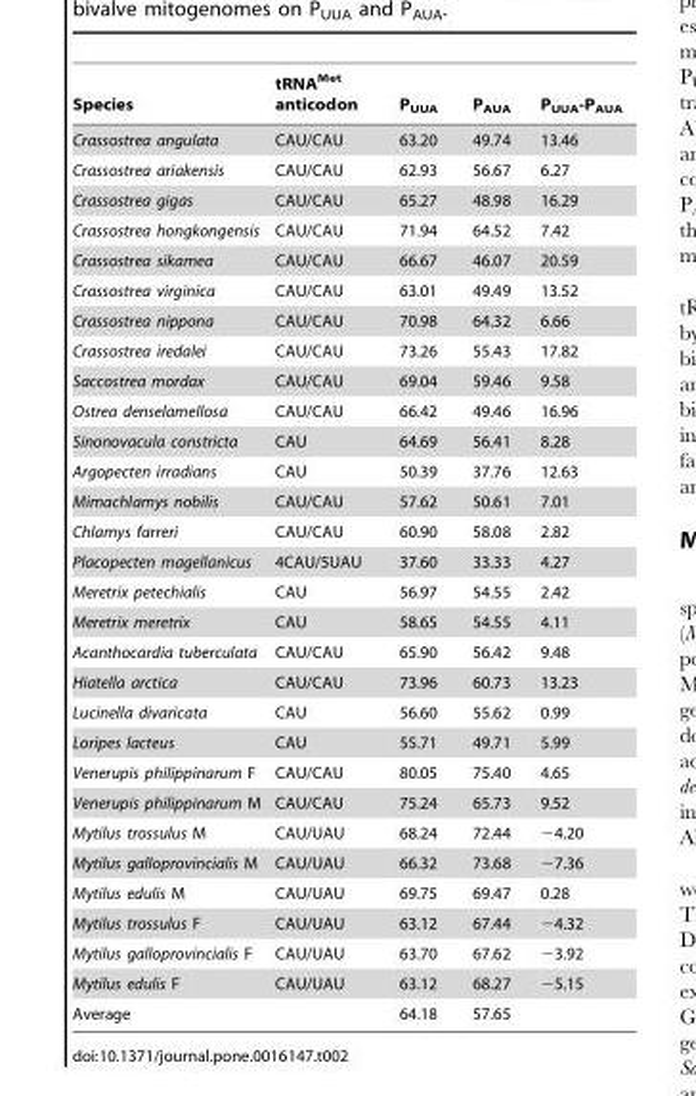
<table><thead><tr><td>Species</td><td>tRNA<sup>Met</sup> anticodon</td><td>P<sub>UUA</sub></td><td>P<sub>AUA</sub></td><td>P<sub>UUA</sub>-P<sub>AUA</sub></td></tr></thead><tbody><tr><td>Crassostrea angulata</td><td>CAU/CAU</td><td>63.20</td><td>49.74</td><td>13.46</td></tr><tr><td>Crassostrea ariakensis</td><td>CAU/CAU</td><td>62.93</td><td>56.67</td><td>6.27</td></tr><tr><td>Crassostrea gigas</td><td>CAU/CAU</td><td>65.27</td><td>48.98</td><td>16.29</td></tr><tr><td>Crassostrea hongkongensis</td><td>CAU/CAU</td><td>71.94</td><td>64.52</td><td>7.42</td></tr><tr><td>Crassostrea sikamea</td><td>CAU/CAU</td><td>66.67</td><td>46.07</td><td>20.59</td></tr><tr><td>Crassostrea virginica</td><td>CAU/CAU</td><td>63.01</td><td>49.49</td><td>13.52</td></tr><tr><td>Crassostrea nippona</td><td>CAU/CAU</td><td>70.98</td><td>64.32</td><td>6.66</td></tr><tr><td>Crassostrea iredalei</td><td>CAU/CAU</td><td>73.26</td><td>55.43</td><td>17.82</td></tr><tr><td>Saccostrea mordax</td><td>CAU/CAU</td><td>69.04</td><td>59.46</td><td>9.58</td></tr><tr><td>Ostrea denselamellosa</td><td>CAU/CAU</td><td>66.42</td><td>49.46</td><td>16.96</td></tr><tr><td>Sinonovacula constricta</td><td>CAU</td><td>64.69</td><td>56.41</td><td>8.28</td></tr><tr><td>Argopecten irradians</td><td>CAU</td><td>50.39</td><td>37.76</td><td>12.63</td></tr><tr><td>Mimachlamys nobilis</td><td>CAU/CAU</td><td>57.62</td><td>50.61</td><td>7.01</td></tr><tr><td>Chlamys farreri</td><td>CAU/CAU</td><td>60.90</td><td>58.08</td><td>2.82</td></tr><tr><td>Placopecten magellanicus</td><td>4CAU/5UAU</td><td>37.60</td><td>33.33</td><td>4.27</td></tr><tr><td>Meretrix petechialis</td><td>CAU</td><td>56.97</td><td>54.55</td><td>2.42</td></tr><tr><td>Meretrix meretrix</td><td>CAU</td><td>58.65</td><td>54.55</td><td>4.11</td></tr><tr><td>Acanthocardia tuberculata</td><td>CAU/CAU</td><td>65.90</td><td>56.42</td><td>9.48</td></tr><tr><td>Hiatella arctica</td><td>CAU/CAU</td><td>73.96</td><td>60.73</td><td>13.23</td></tr><tr><td>Lucinella divaricata</td><td>CAU</td><td>56.60</td><td>55.62</td><td>0.99</td></tr><tr><td>Loripes lacteus</td><td>CAU</td><td>55.71</td><td>49.71</td><td>5.99</td></tr><tr><td>Venerupis philippinarum F</td><td>CAU/CAU</td><td>80.05</td><td>75.40</td><td>4.65</td></tr><tr><td>Venerupis philippinarum M</td><td>CAU/CAU</td><td>75.24</td><td>65.73</td><td>9.52</td></tr><tr><td>Mytilus trossulus M</td><td>CAU/UAU</td><td>68.24</td><td>72.44</td><td>−4.20</td></tr><tr><td>Mytilus galloprovincialis M</td><td>CAU/UAU</td><td>66.32</td><td>73.68</td><td>−7.36</td></tr><tr><td>Mytilus edulis M</td><td>CAU/UAU</td><td>69.75</td><td>69.47</td><td>0.28</td></tr><tr><td>Mytilus trossulus F</td><td>CAU/UAU</td><td>63.12</td><td>67.44</td><td>−4.32</td></tr><tr><td>Mytilus galloprovincialis F</td><td>CAU/UAU</td><td>63.70</td><td>67.62</td><td>−3.92</td></tr><tr><td>Mytilus edulis F</td><td>CAU/UAU</td><td>63.12</td><td>68.27</td><td>−5.15</td></tr><tr><td>Average</td><td></td><td>64.18</td><td>57.65</td><td></td></tr></tbody></table>